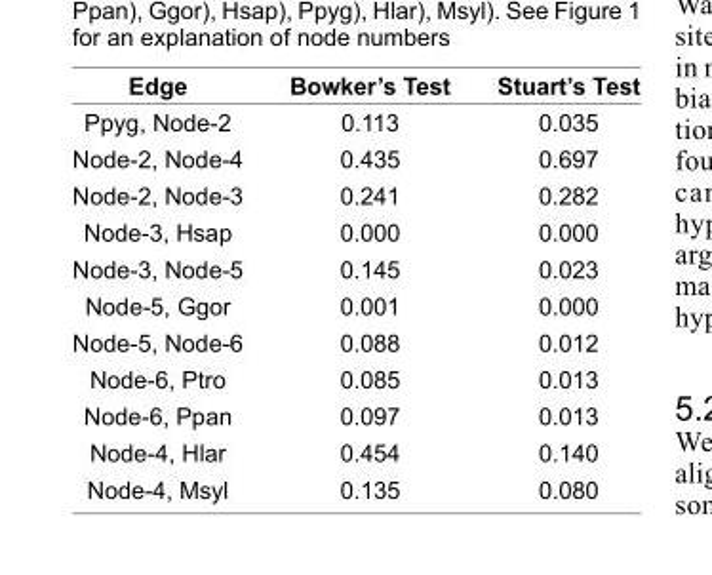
<table><thead><tr><td>Edge</td><td>Bowker’s Test</td><td>Stuart’s Test</td></tr></thead><tbody><tr><td>Ppyg, Node-2</td><td>0.113</td><td>0.035</td></tr><tr><td>Node-2, Node-4</td><td>0.435</td><td>0.697</td></tr><tr><td>Node-2, Node-3</td><td>0.241</td><td>0.282</td></tr><tr><td>Node-3, Hsap</td><td>0.000</td><td>0.000</td></tr><tr><td>Node-3, Node-5</td><td>0.145</td><td>0.023</td></tr><tr><td>Node-5, Ggor</td><td>0.001</td><td>0.000</td></tr><tr><td>Node-5, Node-6</td><td>0.088</td><td>0.012</td></tr><tr><td>Node-6, Ptro</td><td>0.085</td><td>0.013</td></tr><tr><td>Node-6, Ppan</td><td>0.097</td><td>0.013</td></tr><tr><td>Node-4, Hlar</td><td>0.454</td><td>0.140</td></tr><tr><td>Node-4, Msyl</td><td>0.135</td><td>0.080</td></tr></tbody></table>